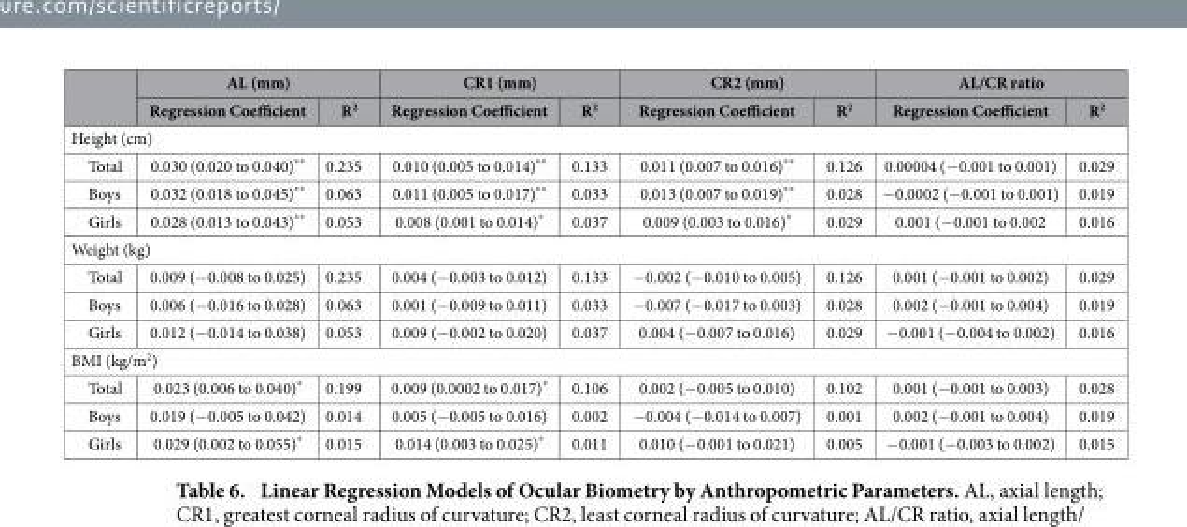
<table><thead><tr><td rowspan="2"></td><td colspan="2">AL (mm)</td><td colspan="2">CR1 (mm)</td><td colspan="2">CR2 (mm)</td><td colspan="2">AL/CR ratio</td></tr><tr><td>Regression Coefficient</td><td>R<sup>2</sup></td><td>Regression Coefficient</td><td>R<sup>2</sup></td><td>Regression Coefficient</td><td>R<sup>2</sup></td><td>Regression Coefficient</td><td>R<sup>2</sup></td></tr></thead><tbody><tr><td colspan="9">Height (cm)</td></tr><tr><td>Total</td><td>0.030 (0.020 to 0.040)**</td><td>0.235</td><td>0.010 (0.005 to 0.014)**</td><td>0.133</td><td>0.011 (0.007 to 0.016)**</td><td>0.126</td><td>0.00004 (− 0.001 to 0.001)</td><td>0.029</td></tr><tr><td>Boys</td><td>0.032 (0.018 to 0.045)**</td><td>0.063</td><td>0.011 (0.005 to 0.017)**</td><td>0.033</td><td>0.013 (0.007 to 0.019)**</td><td>0.028</td><td>− 0.0002 (− 0.001 to 0.001)</td><td>0.019</td></tr><tr><td>Girls</td><td>0.028 (0.013 to 0.043)**</td><td>0.053</td><td>0.008 (0.001 to 0.014)*</td><td>0.037</td><td>0.009 (0.003 to 0.016)*</td><td>0.029</td><td>0.001 (− 0.001 to 0.002</td><td>0.016</td></tr><tr><td colspan="9">Weight (kg)</td></tr><tr><td>Total</td><td>0.009 (− 0.008 to 0.025)</td><td>0.235</td><td>0.004 (− 0.003 to 0.012)</td><td>0.133</td><td>− 0.002 (− 0.010 to 0.005)</td><td>0.126</td><td>0.001 (− 0.001 to 0.002)</td><td>0.029</td></tr><tr><td>Boys</td><td>0.006 (− 0.016 to 0.028)</td><td>0.063</td><td>0.001 (− 0.009 to 0.011)</td><td>0.033</td><td>− 0.007 (− 0.017 to 0.003)</td><td>0.028</td><td>0.002 (− 0.001 to 0.004)</td><td>0.019</td></tr><tr><td>Girls</td><td>0.012 (− 0.014 to 0.038)</td><td>0.053</td><td>0.009 (− 0.002 to 0.020)</td><td>0.037</td><td>0.004 (− 0.007 to 0.016)</td><td>0.029</td><td>− 0.001 (− 0.004 to 0.002)</td><td>0.016</td></tr><tr><td colspan="9">BMI (kg/m<sup>2</sup>)</td></tr><tr><td>Total</td><td>0.023 (0.006 to 0.040)*</td><td>0.199</td><td>0.009 (0.0002 to 0.017)*</td><td>0.106</td><td>0.002 (− 0.005 to 0.010)</td><td>0.102</td><td>0.001 (− 0.001 to 0.003)</td><td>0.028</td></tr><tr><td>Boys</td><td>0.019 (− 0.005 to 0.042)</td><td>0.014</td><td>0.005 (− 0.005 to 0.016)</td><td>0.002</td><td>− 0.004 (− 0.014 to 0.007)</td><td>0.001</td><td>0.002 (− 0.001 to 0.004)</td><td>0.019</td></tr><tr><td>Girls</td><td>0.029 (0.002 to 0.055)*</td><td>0.015</td><td>0.014 (0.003 to 0.025)*</td><td>0.011</td><td>0.010 (− 0.001 to 0.021)</td><td>0.005</td><td>− 0.001 (− 0.003 to 0.002)</td><td>0.015</td></tr></tbody></table>